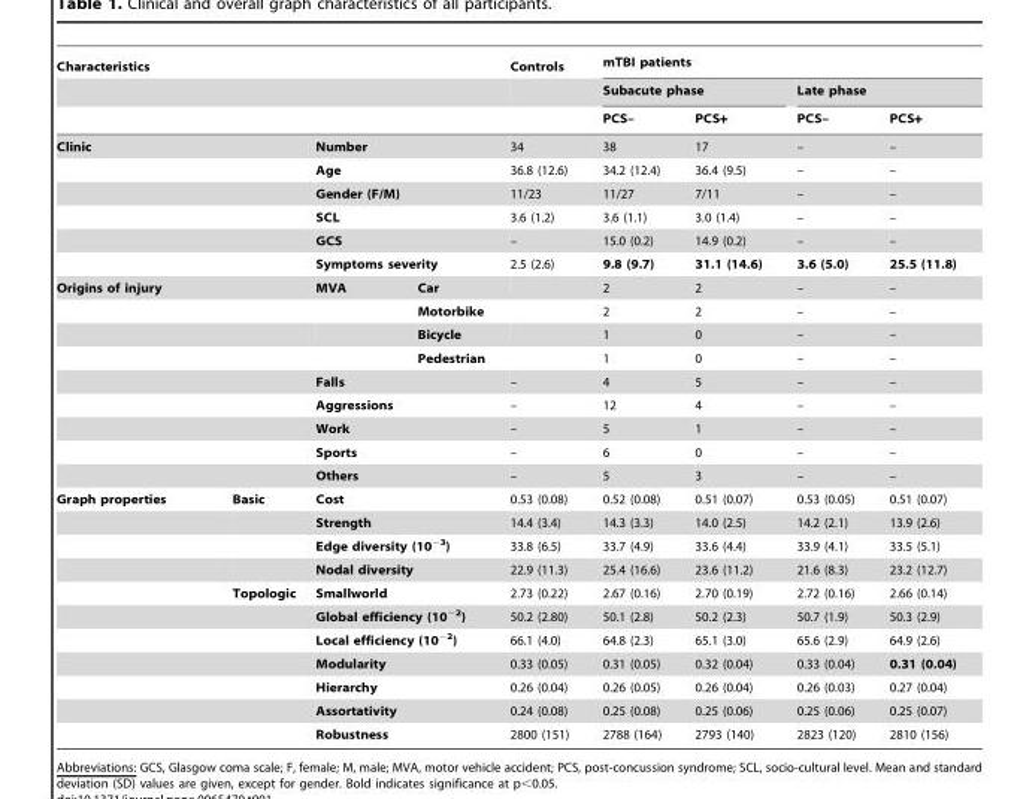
<table><thead><tr><td colspan="4">Characteristics</td><td rowspan="3">Controls</td><td colspan="4">mTBI patients</td></tr><tr><td rowspan="2"></td><td rowspan="2"></td><td rowspan="2"></td><td rowspan="2"></td><td colspan="2">Subacute phase</td><td colspan="2">Late phase</td></tr><tr><td>PCS–</td><td>PCS+</td><td>PCS–</td><td>PCS+</td></tr></thead><tbody><tr><td rowspan="6" colspan="2">Clinic</td><td colspan="2">Number</td><td>34</td><td>38</td><td>17</td><td>–</td><td>–</td></tr><tr><td colspan="2">Age</td><td>36.8 (12.6)</td><td>34.2 (12.4)</td><td>36.4 (9.5)</td><td>–</td><td>–</td></tr><tr><td colspan="2">Gender (F/M)</td><td>11/23</td><td>11/27</td><td>7/11</td><td>–</td><td>–</td></tr><tr><td colspan="2">SCL</td><td>3.6 (1.2)</td><td>3.6 (1.1)</td><td>3.0 (1.4)</td><td>–</td><td>–</td></tr><tr><td colspan="2">GCS</td><td>–</td><td>15.0 (0.2)</td><td>14.9 (0.2)</td><td>–</td><td>–</td></tr><tr><td colspan="2">Symptoms severity</td><td>2.5 (2.6)</td><td>9.8 (9.7)</td><td>31.1 (14.6)</td><td>3.6 (5.0)</td><td>25.5 (11.8)</td></tr><tr><td rowspan="9" colspan="2">Origins of injury</td><td>MVA</td><td>Car</td><td></td><td>2</td><td>2</td><td>–</td><td>–</td></tr><tr><td></td><td>Motorbike</td><td></td><td>2</td><td>2</td><td>–</td><td>–</td></tr><tr><td></td><td>Bicycle</td><td></td><td>1</td><td>0</td><td>–</td><td>–</td></tr><tr><td></td><td>Pedestrian</td><td></td><td>1</td><td>0</td><td>–</td><td>–</td></tr><tr><td colspan="2">Falls</td><td>–</td><td>4</td><td>5</td><td>–</td><td>–</td></tr><tr><td colspan="2">Aggressions</td><td>–</td><td>12</td><td>4</td><td>–</td><td>–</td></tr><tr><td colspan="2">Work</td><td>–</td><td>5</td><td>1</td><td>–</td><td>–</td></tr><tr><td colspan="2">Sports</td><td>–</td><td>6</td><td>0</td><td>–</td><td>–</td></tr><tr><td colspan="2">Others</td><td>–</td><td>5</td><td>3</td><td>–</td><td>–</td></tr><tr><td rowspan="5">Graph properties</td><td>Basic</td><td colspan="2">Cost</td><td>0.53 (0.08)</td><td>0.52 (0.08)</td><td>0.51 (0.07)</td><td>0.53 (0.05)</td><td>0.51 (0.07)</td></tr><tr><td></td><td colspan="2">Strength</td><td>14.4 (3.4)</td><td>14.3 (3.3)</td><td>14.0 (2.5)</td><td>14.2 (2.1)</td><td>13.9 (2.6)</td></tr><tr><td></td><td colspan="2">Edge diversity (10<sup>−3</sup>)</td><td>33.8 (6.5)</td><td>33.7 (4.9)</td><td>33.6 (4.4)</td><td>33.9 (4.1)</td><td>33.5 (5.1)</td></tr><tr><td></td><td colspan="2">Nodal diversity</td><td>22.9 (11.3)</td><td>25.4 (16.6)</td><td>23.6 (11.2)</td><td>21.6 (8.3)</td><td>23.2 (12.7)</td></tr><tr><td>Topologic</td><td colspan="2">Smallworld</td><td>2.73 (0.22)</td><td>2.67 (0.16)</td><td>2.70 (0.19)</td><td>2.72 (0.16)</td><td>2.66 (0.14)</td></tr><tr><td colspan="2"></td><td colspan="2">Global efficiency (10<sup>−2</sup>)</td><td>50.2 (2.80)</td><td>50.1 (2.8)</td><td>50.2 (2.3)</td><td>50.7 (1.9)</td><td>50.3 (2.9)</td></tr><tr><td colspan="2"></td><td colspan="2">Local efficiency (10<sup>−2</sup>)</td><td>66.1 (4.0)</td><td>64.8 (2.3)</td><td>65.1 (3.0)</td><td>65.6 (2.9)</td><td>64.9 (2.6)</td></tr><tr><td colspan="2"></td><td colspan="2">Modularity</td><td>0.33 (0.05)</td><td>0.31 (0.05)</td><td>0.32 (0.04)</td><td>0.33 (0.04)</td><td>0.31 (0.04)</td></tr><tr><td colspan="2"></td><td colspan="2">Hierarchy</td><td>0.26 (0.04)</td><td>0.26 (0.05)</td><td>0.26 (0.04)</td><td>0.26 (0.03)</td><td>0.27 (0.04)</td></tr><tr><td colspan="2"></td><td colspan="2">Assortativity</td><td>0.24 (0.08)</td><td>0.25 (0.08)</td><td>0.25 (0.06)</td><td>0.25 (0.06)</td><td>0.25 (0.07)</td></tr><tr><td colspan="2"></td><td colspan="2">Robustness</td><td>2800 (151)</td><td>2788 (164)</td><td>2793 (140)</td><td>2823 (120)</td><td>2810 (156)</td></tr></tbody></table>